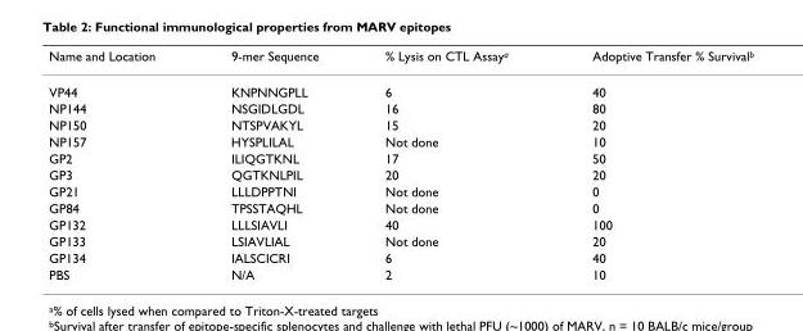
<table><thead><tr><td>Name and Location</td><td>9-mer Sequence</td><td>% Lysis on CTL Assay<sup>a</sup></td><td>Adoptive Transfer % Survival<sup>b</sup></td></tr></thead><tbody><tr><td>VP44</td><td>KNPNNGPLL</td><td>6</td><td>40</td></tr><tr><td>NP144</td><td>NSGIDLGDL</td><td>16</td><td>80</td></tr><tr><td>NP150</td><td>NTSPVAKYL</td><td>15</td><td>20</td></tr><tr><td>NP157</td><td>HYSPLILAL</td><td>Not done</td><td>10</td></tr><tr><td>GP2</td><td>ILIQGTKNL</td><td>17</td><td>50</td></tr><tr><td>GP3</td><td>QGTKNLPIL</td><td>20</td><td>20</td></tr><tr><td>GP21</td><td>LLLDPPTNI</td><td>Not done</td><td>0</td></tr><tr><td>GP84</td><td>TPSSTAQHL</td><td>Not done</td><td>0</td></tr><tr><td>GP132</td><td>LLLSIAVLI</td><td>40</td><td>100</td></tr><tr><td>GP133</td><td>LSIAVLIAL</td><td>Not done</td><td>20</td></tr><tr><td>GP134</td><td>IALSCICRI</td><td>6</td><td>40</td></tr><tr><td>PBS</td><td>N/A</td><td>2</td><td>10</td></tr></tbody></table>